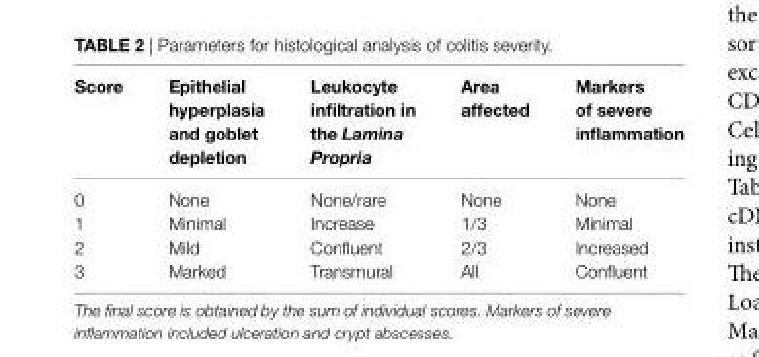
<table><thead><tr><td>score</td><td>epithelial hyperplasia and goblet depletion</td><td>leukocyte infiltration in the Lamina Propria</td><td>area affected</td><td>Markers of severe inflammation</td></tr></thead><tbody><tr><td>0</td><td>None</td><td>None/rare</td><td>None</td><td>None</td></tr><tr><td>1</td><td>Minimal</td><td>Increase</td><td>1/3</td><td>Minimal</td></tr><tr><td>2</td><td>Mild</td><td>Confluent</td><td>2/3</td><td>Increased</td></tr><tr><td>3</td><td>Marked</td><td>Transmural</td><td>All</td><td>Confluent</td></tr></tbody></table>